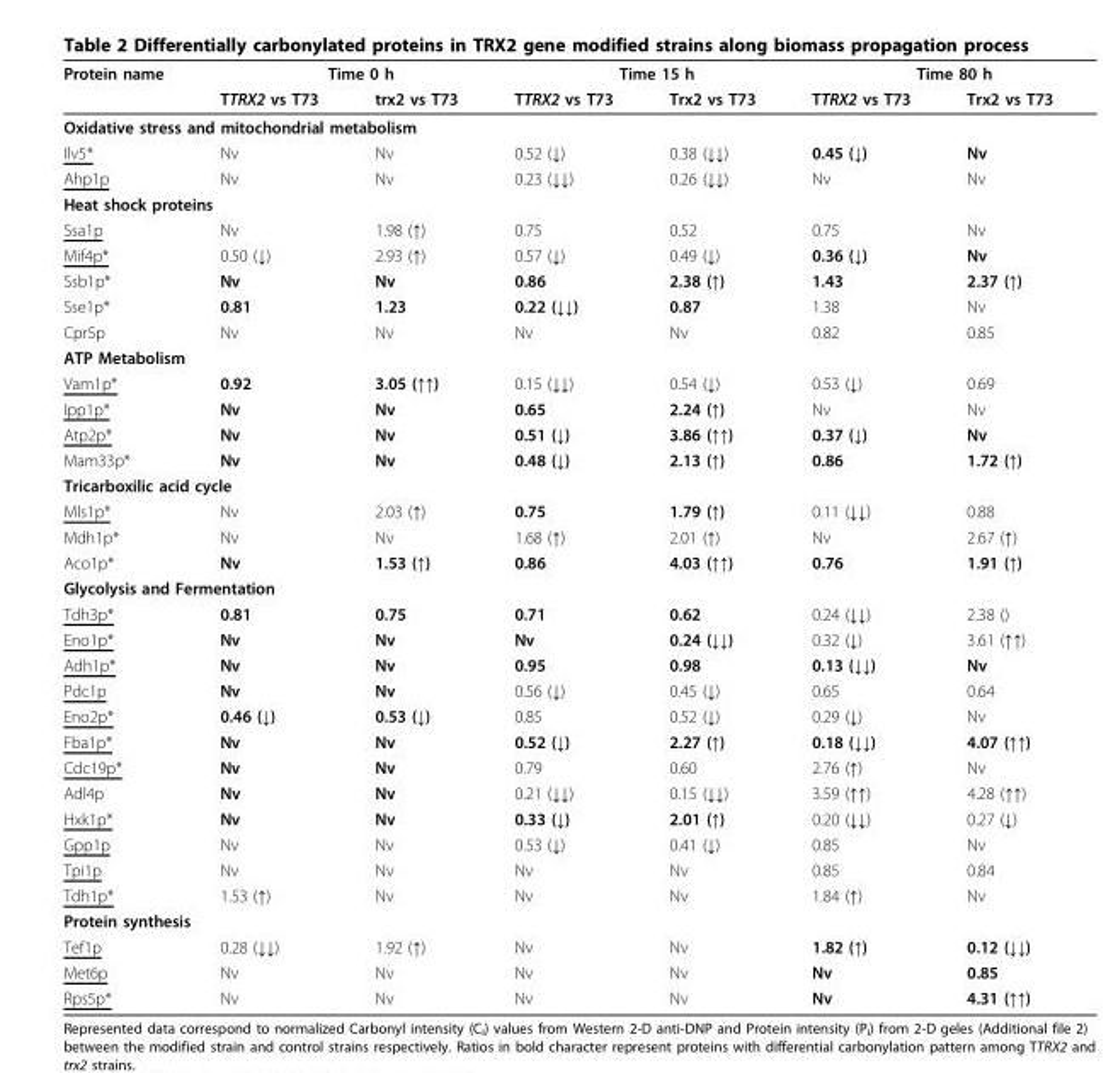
<table><thead><tr><td rowspan="2">Protein name</td><td colspan="2">Time 0 h</td><td colspan="2">Time 15 h</td><td colspan="2">Time 80 h</td></tr><tr><td>TTRX2 vs T73</td><td>trx2 vs T73</td><td>TTRX2 vs T73</td><td>Trx2 vs T73</td><td>TTRX2 vs T73</td><td>Trx2 vs T73</td></tr></thead><tbody><tr><td colspan="7">Oxidative stress and mitochondrial metabolism</td></tr><tr><td>Ilv5*</td><td>Nv</td><td>Nv</td><td>0.52 (↓)</td><td>0.38 (↓↓)</td><td>0.45 (↓)</td><td>Nv</td></tr><tr><td>Ahp1p</td><td>Nv</td><td>Nv</td><td>0.23 (↓↓)</td><td>0.26 (↓↓)</td><td>Nv</td><td>Nv</td></tr><tr><td colspan="7">Heat shock proteins</td></tr><tr><td>Ssa1p</td><td>Nv</td><td>1.98 (↑)</td><td>0.75</td><td>0.52</td><td>0.75</td><td>Nv</td></tr><tr><td>Mif4p*</td><td>0.50 (↓)</td><td>2.93 (↑)</td><td>0.57 (↓)</td><td>0.49 (↓)</td><td>0.36 (↓)</td><td>Nv</td></tr><tr><td>Ssb1p*</td><td>Nv</td><td>Nv</td><td>0.86</td><td>2.38 (↑)</td><td>1.43</td><td>2.37 (↑)</td></tr><tr><td>Sse1p*</td><td>0.81</td><td>1.23</td><td>0.22 (↓↓)</td><td>0.87</td><td>1.38</td><td>Nv</td></tr><tr><td>Cpr5p</td><td>Nv</td><td>Nv</td><td>Nv</td><td>Nv</td><td>0.82</td><td>0.85</td></tr><tr><td colspan="7">ATP Metabolism</td></tr><tr><td>Vam1p*</td><td>0.92</td><td>3.05 (↑↑)</td><td>0.15 (↓↓)</td><td>0.54 (↓)</td><td>0.53 (↓)</td><td>0.69</td></tr><tr><td>Ipp1p*</td><td>Nv</td><td>Nv</td><td>0.65</td><td>2.24 (↑)</td><td>Nv</td><td>Nv</td></tr><tr><td>Atp2p*</td><td>Nv</td><td>Nv</td><td>0.51 (↓)</td><td>3.86 (↑↑)</td><td>0.37 (↓)</td><td>Nv</td></tr><tr><td>Mam33p*</td><td>Nv</td><td>Nv</td><td>0.48 (↓)</td><td>2.13 (↑)</td><td>0.86</td><td>1.72 (↑)</td></tr><tr><td colspan="7">Tricarboxilic acid cycle</td></tr><tr><td>Mls1p*</td><td>Nv</td><td>2.03 (↑)</td><td>0.75</td><td>1.79 (↑)</td><td>0.11 (↓↓)</td><td>0.88</td></tr><tr><td>Mdh1p*</td><td>Nv</td><td>Nv</td><td>1.68 (↑)</td><td>2.01 (↑)</td><td>Nv</td><td>2.67 (↑)</td></tr><tr><td>Aco1p*</td><td>Nv</td><td>1.53 (↑)</td><td>0.86</td><td>4.03 (↑↑)</td><td>0.76</td><td>1.91 (↑)</td></tr><tr><td colspan="7">Glycolysis and Fermentation</td></tr><tr><td>Tdh3p*</td><td>0.81</td><td>0.75</td><td>0.71</td><td>0.62</td><td>0.24 (↓↓)</td><td>2.38 ()</td></tr><tr><td>Eno1p*</td><td>Nv</td><td>Nv</td><td>Nv</td><td>0.24 (↓↓)</td><td>0.32 (↓)</td><td>3.61 (↑↑)</td></tr><tr><td>Adh1p*</td><td>Nv</td><td>Nv</td><td>0.95</td><td>0.98</td><td>0.13 (↓↓)</td><td>Nv</td></tr><tr><td>Pdc1p</td><td>Nv</td><td>Nv</td><td>0.56 (↓)</td><td>0.45 (↓)</td><td>0.65</td><td>0.64</td></tr><tr><td>Eno2p*</td><td>0.46 (↓)</td><td>0.53 (↓)</td><td>0.85</td><td>0.52 (↓)</td><td>0.29 (↓)</td><td>Nv</td></tr><tr><td>Fba1p*</td><td>Nv</td><td>Nv</td><td>0.52 (↓)</td><td>2.27 (↑)</td><td>0.18 (↓↓)</td><td>4.07 (↑↑)</td></tr><tr><td>Cdc19p*</td><td>Nv</td><td>Nv</td><td>0.79</td><td>0.60</td><td>2.76 (↑)</td><td>Nv</td></tr><tr><td>Adl4p</td><td>Nv</td><td>Nv</td><td>0.21 (↓↓)</td><td>0.15 (↓↓)</td><td>3.59 (↑↑)</td><td>4.28 (↑↑)</td></tr><tr><td>Hxk1p*</td><td>Nv</td><td>Nv</td><td>0.33 (↓)</td><td>2.01 (↑)</td><td>0.20 (↓↓)</td><td>0.27 (↓)</td></tr><tr><td>Gpp1p</td><td>Nv</td><td>Nv</td><td>0.53 (↓)</td><td>0.41 (↓)</td><td>0.85</td><td>Nv</td></tr><tr><td>Tpi1p</td><td>Nv</td><td>Nv</td><td>Nv</td><td>Nv</td><td>0.85</td><td>0.84</td></tr><tr><td>Tdh1p*</td><td>1.53 (↑)</td><td>Nv</td><td>Nv</td><td>Nv</td><td>1.84 (↑)</td><td>Nv</td></tr><tr><td colspan="7">Protein synthesis</td></tr><tr><td>Tef1p</td><td>0.28 (↓↓)</td><td>1.92 (↑)</td><td>Nv</td><td>Nv</td><td>1.82 (↑)</td><td>0.12 (↓↓)</td></tr><tr><td>Met6p</td><td>Nv</td><td>Nv</td><td>Nv</td><td>Nv</td><td>Nv</td><td>0.85</td></tr><tr><td>Rps5p*</td><td>Nv</td><td>Nv</td><td>Nv</td><td>Nv</td><td>Nv</td><td>4.31 (↑↑)</td></tr></tbody></table>